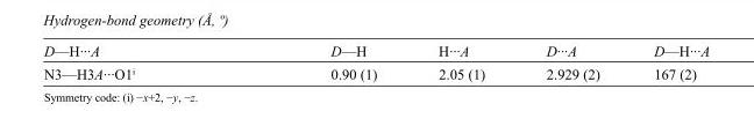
<table><tbody><tr><td>D—H···A</td><td>D—H</td><td>H···A</td><td>D···A</td><td>D—H···A</td></tr><tr><td>N3—H3A···O1<sup>i</sup></td><td>0.90 (1)</td><td>2.05 (1)</td><td>2.929 (2)</td><td>167 (2)</td></tr></tbody></table>